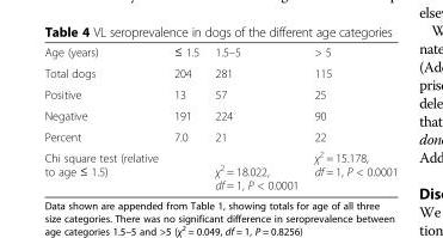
<table><tbody><tr><td>Age (years)</td><td>≤ 1.5</td><td>1.5–5</td><td>&gt; 5</td></tr><tr><td>Total dogs</td><td>204</td><td>281</td><td>115</td></tr><tr><td>Positive</td><td>13</td><td>57</td><td>25</td></tr><tr><td>Negative</td><td>191</td><td>224</td><td>90</td></tr><tr><td>Percent</td><td>7.0</td><td>21</td><td>22</td></tr><tr><td>Chi square test (relative to age ≤ 1.5)</td><td></td><td>χ<sup>2</sup> = 18.022, df = 1, P &lt; 0.0001</td><td>χ<sup>2</sup> = 15.178, df = 1, P &lt; 0.0001</td></tr></tbody></table>